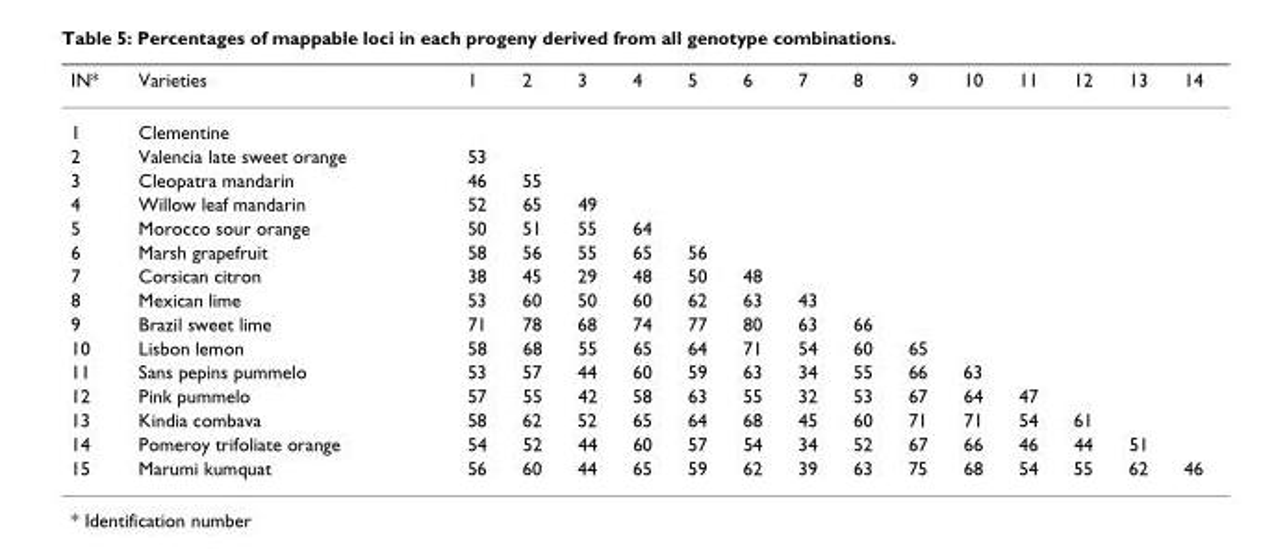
<table><thead><tr><td>IN*</td><td>Varieties</td><td>1</td><td>2</td><td>3</td><td>4</td><td>5</td><td>6</td><td>7</td><td>8</td><td>9</td><td>10</td><td>11</td><td>12</td><td>13</td><td>14</td></tr></thead><tbody><tr><td>1</td><td>Clementine</td><td></td><td></td><td></td><td></td><td></td><td></td><td></td><td></td><td></td><td></td><td></td><td></td><td></td><td></td></tr><tr><td>2</td><td>Valencia late sweet orange</td><td>53</td><td></td><td></td><td></td><td></td><td></td><td></td><td></td><td></td><td></td><td></td><td></td><td></td><td></td></tr><tr><td>3</td><td>Cleopatra mandarin</td><td>46</td><td>55</td><td></td><td></td><td></td><td></td><td></td><td></td><td></td><td></td><td></td><td></td><td></td><td></td></tr><tr><td>4</td><td>Willow leaf mandarin</td><td>52</td><td>65</td><td>49</td><td></td><td></td><td></td><td></td><td></td><td></td><td></td><td></td><td></td><td></td><td></td></tr><tr><td>5</td><td>Morocco sour orange</td><td>50</td><td>51</td><td>55</td><td>64</td><td></td><td></td><td></td><td></td><td></td><td></td><td></td><td></td><td></td><td></td></tr><tr><td>6</td><td>Marsh grapefruit</td><td>58</td><td>56</td><td>55</td><td>65</td><td>56</td><td></td><td></td><td></td><td></td><td></td><td></td><td></td><td></td><td></td></tr><tr><td>7</td><td>Corsican citron</td><td>38</td><td>45</td><td>29</td><td>48</td><td>50</td><td>48</td><td></td><td></td><td></td><td></td><td></td><td></td><td></td><td></td></tr><tr><td>8</td><td>Mexican lime</td><td>53</td><td>60</td><td>50</td><td>60</td><td>62</td><td>63</td><td>43</td><td></td><td></td><td></td><td></td><td></td><td></td><td></td></tr><tr><td>9</td><td>Brazil sweet lime</td><td>71</td><td>78</td><td>68</td><td>74</td><td>77</td><td>80</td><td>63</td><td>66</td><td></td><td></td><td></td><td></td><td></td><td></td></tr><tr><td>10</td><td>Lisbon lemon</td><td>58</td><td>68</td><td>55</td><td>65</td><td>64</td><td>71</td><td>54</td><td>60</td><td>65</td><td></td><td></td><td></td><td></td><td></td></tr><tr><td>11</td><td>Sans pepins pummelo</td><td>53</td><td>57</td><td>44</td><td>60</td><td>59</td><td>63</td><td>34</td><td>55</td><td>66</td><td>63</td><td></td><td></td><td></td><td></td></tr><tr><td>12</td><td>Pink pummelo</td><td>57</td><td>55</td><td>42</td><td>58</td><td>63</td><td>55</td><td>32</td><td>53</td><td>67</td><td>64</td><td>47</td><td></td><td></td><td></td></tr><tr><td>13</td><td>Kindia combava</td><td>58</td><td>62</td><td>52</td><td>65</td><td>64</td><td>68</td><td>45</td><td>60</td><td>71</td><td>71</td><td>54</td><td>61</td><td></td><td></td></tr><tr><td>14</td><td>Pomeroy trifoliate orange</td><td>54</td><td>52</td><td>44</td><td>60</td><td>57</td><td>54</td><td>34</td><td>52</td><td>67</td><td>66</td><td>46</td><td>44</td><td>51</td><td></td></tr><tr><td>15</td><td>Marumi kumquat</td><td>56</td><td>60</td><td>44</td><td>65</td><td>59</td><td>62</td><td>39</td><td>63</td><td>75</td><td>68</td><td>54</td><td>55</td><td>62</td><td>46</td></tr></tbody></table>